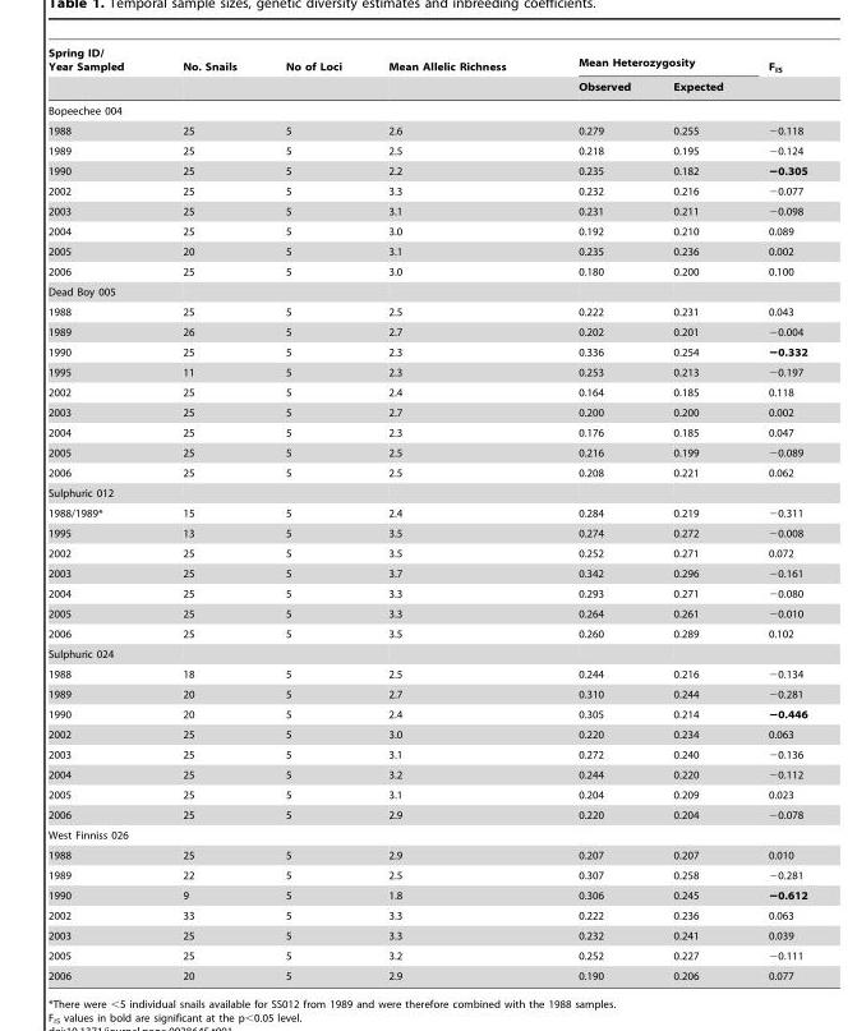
<table><thead><tr><td rowspan="2">Spring ID/ Year Sampled</td><td rowspan="2">No. Snails</td><td rowspan="2">No of Loci</td><td rowspan="2">Mean Allelic Richness</td><td colspan="2">Mean Heterozygosity</td><td rowspan="2">F<sub>IS</sub></td></tr><tr><td>Observed</td><td>Expected</td></tr></thead><tbody><tr><td colspan="7">Bopeechee 004</td></tr><tr><td>1988</td><td>25</td><td>5</td><td>2.6</td><td>0.279</td><td>0.255</td><td>−0.118</td></tr><tr><td>1989</td><td>25</td><td>5</td><td>2.5</td><td>0.218</td><td>0.195</td><td>−0.124</td></tr><tr><td>1990</td><td>25</td><td>5</td><td>2.2</td><td>0.235</td><td>0.182</td><td>−0.305</td></tr><tr><td>2002</td><td>25</td><td>5</td><td>3.3</td><td>0.232</td><td>0.216</td><td>−0.077</td></tr><tr><td>2003</td><td>25</td><td>5</td><td>3.1</td><td>0.231</td><td>0.211</td><td>−0.098</td></tr><tr><td>2004</td><td>25</td><td>5</td><td>3.0</td><td>0.192</td><td>0.210</td><td>0.089</td></tr><tr><td>2005</td><td>20</td><td>5</td><td>3.1</td><td>0.235</td><td>0.236</td><td>0.002</td></tr><tr><td>2006</td><td>25</td><td>5</td><td>3.0</td><td>0.180</td><td>0.200</td><td>0.100</td></tr><tr><td colspan="7">Dead Boy 005</td></tr><tr><td>1988</td><td>25</td><td>5</td><td>2.5</td><td>0.222</td><td>0.231</td><td>0.043</td></tr><tr><td>1989</td><td>26</td><td>5</td><td>2.7</td><td>0.202</td><td>0.201</td><td>−0.004</td></tr><tr><td>1990</td><td>25</td><td>5</td><td>2.3</td><td>0.336</td><td>0.254</td><td>−0.332</td></tr><tr><td>1995</td><td>11</td><td>5</td><td>2.3</td><td>0.253</td><td>0.213</td><td>−0.197</td></tr><tr><td>2002</td><td>25</td><td>5</td><td>2.4</td><td>0.164</td><td>0.185</td><td>0.118</td></tr><tr><td>2003</td><td>25</td><td>5</td><td>2.7</td><td>0.200</td><td>0.200</td><td>0.002</td></tr><tr><td>2004</td><td>25</td><td>5</td><td>2.3</td><td>0.176</td><td>0.185</td><td>0.047</td></tr><tr><td>2005</td><td>25</td><td>5</td><td>2.5</td><td>0.216</td><td>0.199</td><td>−0.089</td></tr><tr><td>2006</td><td>25</td><td>5</td><td>2.5</td><td>0.208</td><td>0.221</td><td>0.062</td></tr><tr><td colspan="7">Sulphuric 012</td></tr><tr><td>1988/1989*</td><td>15</td><td>5</td><td>2.4</td><td>0.284</td><td>0.219</td><td>−0.311</td></tr><tr><td>1995</td><td>13</td><td>5</td><td>3.5</td><td>0.274</td><td>0.272</td><td>−0.008</td></tr><tr><td>2002</td><td>25</td><td>5</td><td>3.5</td><td>0.252</td><td>0.271</td><td>0.072</td></tr><tr><td>2003</td><td>25</td><td>5</td><td>3.7</td><td>0.342</td><td>0.296</td><td>−0.161</td></tr><tr><td>2004</td><td>25</td><td>5</td><td>3.3</td><td>0.293</td><td>0.271</td><td>−0.080</td></tr><tr><td>2005</td><td>25</td><td>5</td><td>3.3</td><td>0.264</td><td>0.261</td><td>−0.010</td></tr><tr><td>2006</td><td>25</td><td>5</td><td>3.5</td><td>0.260</td><td>0.289</td><td>0.102</td></tr><tr><td colspan="7">Sulphuric 024</td></tr><tr><td>1988</td><td>18</td><td>5</td><td>2.5</td><td>0.244</td><td>0.216</td><td>−0.134</td></tr><tr><td>1989</td><td>20</td><td>5</td><td>2.7</td><td>0.310</td><td>0.244</td><td>−0.281</td></tr><tr><td>1990</td><td>20</td><td>5</td><td>2.4</td><td>0.305</td><td>0.214</td><td>−0.446</td></tr><tr><td>2002</td><td>25</td><td>5</td><td>3.0</td><td>0.220</td><td>0.234</td><td>0.063</td></tr><tr><td>2003</td><td>25</td><td>5</td><td>3.1</td><td>0.272</td><td>0.240</td><td>−0.136</td></tr><tr><td>2004</td><td>25</td><td>5</td><td>3.2</td><td>0.244</td><td>0.220</td><td>−0.112</td></tr><tr><td>2005</td><td>25</td><td>5</td><td>3.1</td><td>0.204</td><td>0.209</td><td>0.023</td></tr><tr><td>2006</td><td>25</td><td>5</td><td>2.9</td><td>0.220</td><td>0.204</td><td>−0.078</td></tr><tr><td colspan="7">West Finniss 026</td></tr><tr><td>1988</td><td>25</td><td>5</td><td>2.9</td><td>0.207</td><td>0.207</td><td>0.010</td></tr><tr><td>1989</td><td>22</td><td>5</td><td>2.5</td><td>0.307</td><td>0.258</td><td>−0.281</td></tr><tr><td>1990</td><td>9</td><td>5</td><td>1.8</td><td>0.306</td><td>0.245</td><td>−0.612</td></tr><tr><td>2002</td><td>33</td><td>5</td><td>3.3</td><td>0.222</td><td>0.236</td><td>0.063</td></tr><tr><td>2003</td><td>25</td><td>5</td><td>3.3</td><td>0.232</td><td>0.241</td><td>0.039</td></tr><tr><td>2005</td><td>25</td><td>5</td><td>3.2</td><td>0.252</td><td>0.227</td><td>−0.111</td></tr><tr><td>2006</td><td>20</td><td>5</td><td>2.9</td><td>0.190</td><td>0.206</td><td>0.077</td></tr></tbody></table>